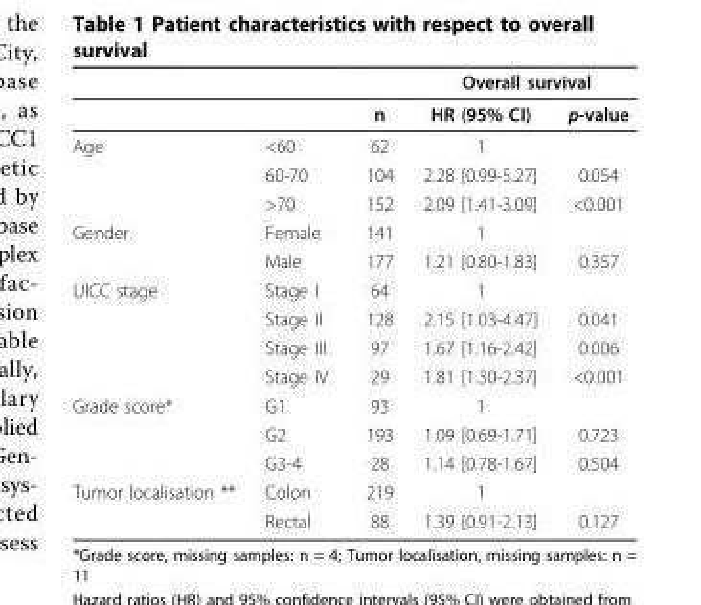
<table><thead><tr><td rowspan="2"></td><td rowspan="2"></td><td rowspan="2">n</td><td colspan="2">Overall survival</td></tr><tr><td>HR (95% CI)</td><td>p-value</td></tr></thead><tbody><tr><td rowspan="3">Age</td><td>&lt;60</td><td>62</td><td>1</td><td></td></tr><tr><td>60-70</td><td>104</td><td>2.28 [0.99-5.27]</td><td>0.054</td></tr><tr><td>&gt;70</td><td>152</td><td>2.09 [1.41-3.09]</td><td>&lt;0.001</td></tr><tr><td rowspan="2">Gender</td><td>Female</td><td>141</td><td>1</td><td></td></tr><tr><td>Male</td><td>177</td><td>1.21 [0.80-1.83]</td><td>0.357</td></tr><tr><td rowspan="4">UICC stage</td><td>Stage I</td><td>64</td><td>1</td><td></td></tr><tr><td>Stage II</td><td>128</td><td>2.15 [1.03-4.47]</td><td>0.041</td></tr><tr><td>Stage III</td><td>97</td><td>1.67 [1.16-2.42]</td><td>0.006</td></tr><tr><td>Stage IV</td><td>29</td><td>1.81 [1.30-2.37]</td><td>&lt;0.001</td></tr><tr><td rowspan="3">Grade score*</td><td>G1</td><td>93</td><td>1</td><td></td></tr><tr><td>G2</td><td>193</td><td>1.09 [0.69-1.71]</td><td>0.723</td></tr><tr><td>G3-4</td><td>28</td><td>1.14 [0.78-1.67]</td><td>0.504</td></tr><tr><td rowspan="2">Tumor localisation **</td><td>Colon</td><td>219</td><td>1</td><td></td></tr><tr><td>Rectal</td><td>88</td><td>1.39 [0.91-2.13]</td><td>0.127</td></tr></tbody></table>